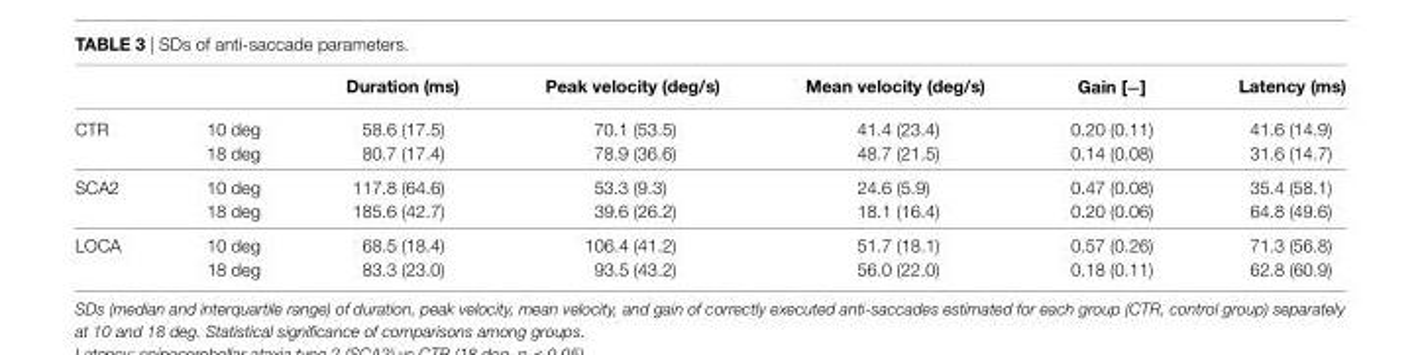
<table><thead><tr><td></td><td></td><td>Duration (ms)</td><td>Peak velocity (deg/s)</td><td>Mean velocity (deg/s)</td><td>gain [−]</td><td>latency (ms)</td></tr></thead><tbody><tr><td rowspan="2">CTR</td><td>10 deg</td><td>58.6 (17.5)</td><td>70.1 (53.5)</td><td>41.4 (23.4)</td><td>0.20 (0.11)</td><td>41.6 (14.9)</td></tr><tr><td>18 deg</td><td>80.7 (17.4)</td><td>78.9 (36.6)</td><td>48.7 (21.5)</td><td>0.14 (0.08)</td><td>31.6 (14.7)</td></tr><tr><td rowspan="2">SCA2</td><td>10 deg</td><td>117.8 (64.6)</td><td>53.3 (9.3)</td><td>24.6 (5.9)</td><td>0.47 (0.08)</td><td>35.4 (58.1)</td></tr><tr><td>18 deg</td><td>185.6 (42.7)</td><td>39.6 (26.2)</td><td>18.1 (16.4)</td><td>0.20 (0.06)</td><td>64.8 (49.6)</td></tr><tr><td rowspan="2">LOCA</td><td>10 deg</td><td>68.5 (18.4)</td><td>106.4 (41.2)</td><td>51.7 (18.1)</td><td>0.57 (0.26)</td><td>71.3 (56.8)</td></tr><tr><td>18 deg</td><td>83.3 (23.0)</td><td>93.5 (43.2)</td><td>56.0 (22.0)</td><td>0.18 (0.11)</td><td>62.8 (60.9)</td></tr></tbody></table>